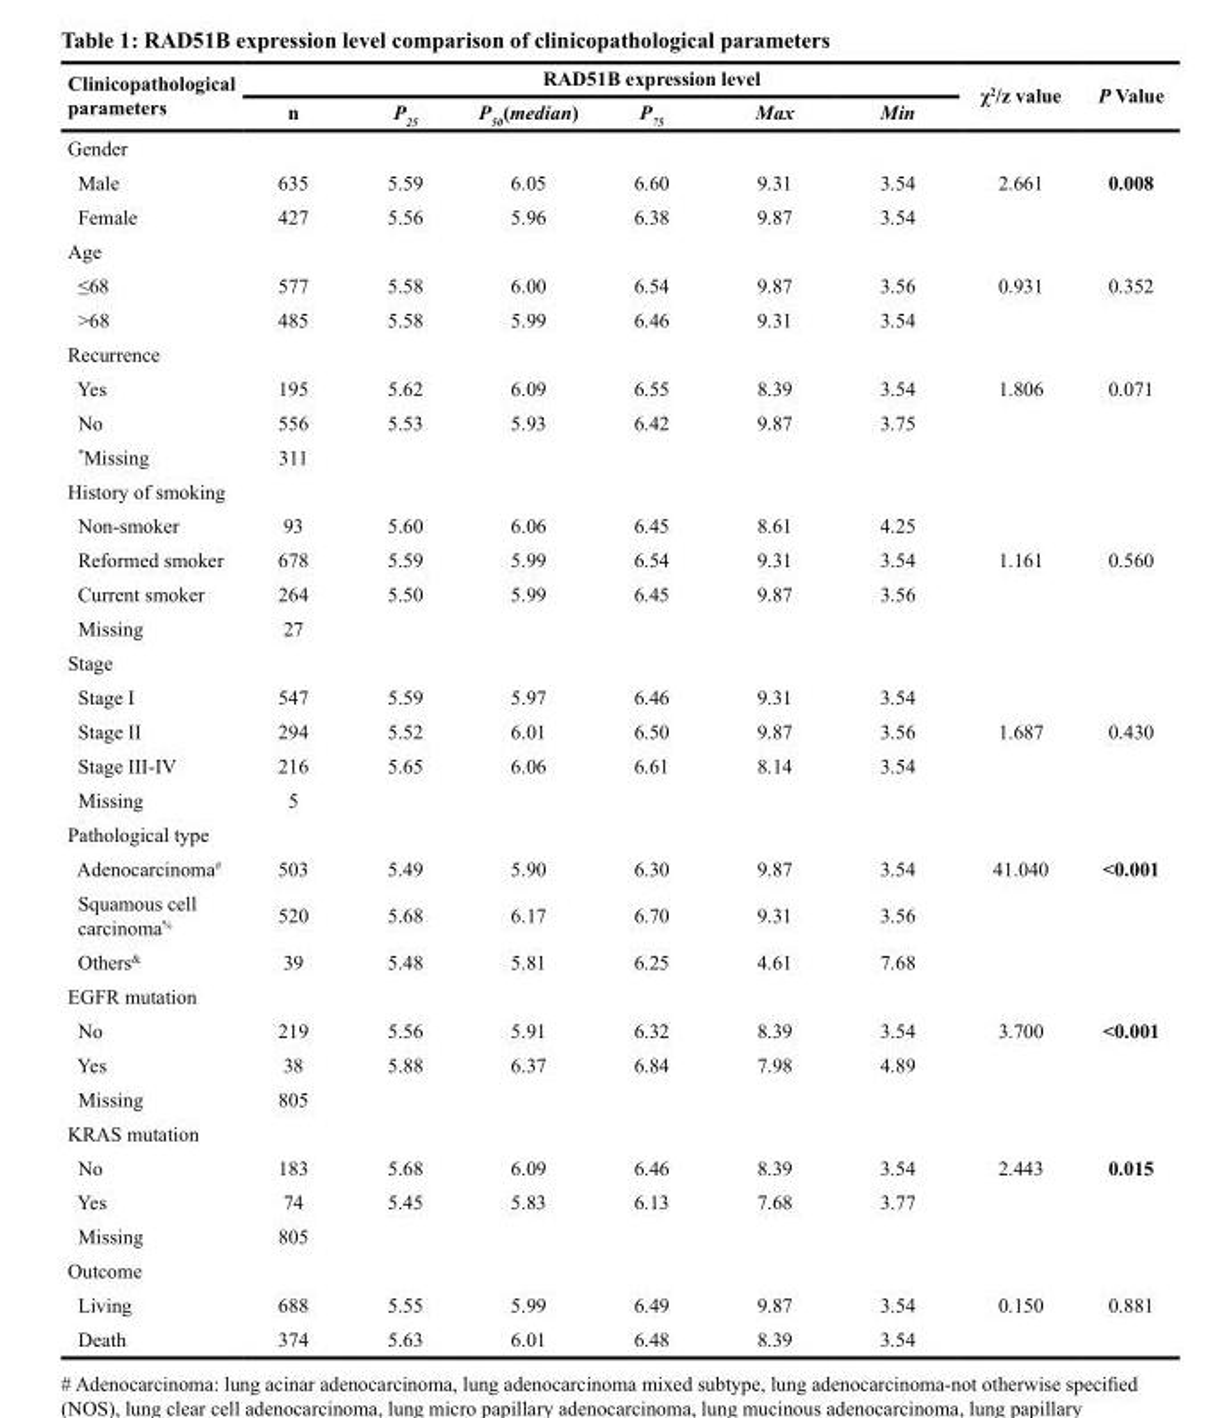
<table><thead><tr><td rowspan="2">Clinicopathological parameters</td><td rowspan="2">n</td><td colspan="5">RAD51B expression level</td><td rowspan="2">χ<sup>2</sup>/z value</td><td rowspan="2">P Value</td></tr><tr><td>P<sub>25</sub></td><td>P<sub>50</sub>(median)</td><td>P<sub>75</sub></td><td>Max</td><td>Min</td></tr></thead><tbody><tr><td colspan="9">Gender</td></tr><tr><td>Male</td><td>635</td><td>5.59</td><td>6.05</td><td>6.60</td><td>9.31</td><td>3.54</td><td>2.661</td><td>0.008</td></tr><tr><td>Female</td><td>427</td><td>5.56</td><td>5.96</td><td>6.38</td><td>9.87</td><td>3.54</td><td></td><td></td></tr><tr><td colspan="9">Age</td></tr><tr><td>≤68</td><td>577</td><td>5.58</td><td>6.00</td><td>6.54</td><td>9.87</td><td>3.56</td><td>0.931</td><td>0.352</td></tr><tr><td>&gt;68</td><td>485</td><td>5.58</td><td>5.99</td><td>6.46</td><td>9.31</td><td>3.54</td><td></td><td></td></tr><tr><td colspan="9">Recurrence</td></tr><tr><td>Yes</td><td>195</td><td>5.62</td><td>6.09</td><td>6.55</td><td>8.39</td><td>3.54</td><td>1.806</td><td>0.071</td></tr><tr><td>No</td><td>556</td><td>5.53</td><td>5.93</td><td>6.42</td><td>9.87</td><td>3.75</td><td></td><td></td></tr><tr><td>*Missing</td><td>311</td><td></td><td></td><td></td><td></td><td></td><td></td><td></td></tr><tr><td colspan="9">History of smoking</td></tr><tr><td>Non-smoker</td><td>93</td><td>5.60</td><td>6.06</td><td>6.45</td><td>8.61</td><td>4.25</td><td></td><td></td></tr><tr><td>Reformed smoker</td><td>678</td><td>5.59</td><td>5.99</td><td>6.54</td><td>9.31</td><td>3.54</td><td>1.161</td><td>0.560</td></tr><tr><td>Current smoker</td><td>264</td><td>5.50</td><td>5.99</td><td>6.45</td><td>9.87</td><td>3.56</td><td></td><td></td></tr><tr><td>Missing</td><td>27</td><td></td><td></td><td></td><td></td><td></td><td></td><td></td></tr><tr><td colspan="9">Stage</td></tr><tr><td>Stage I</td><td>547</td><td>5.59</td><td>5.97</td><td>6.46</td><td>9.31</td><td>3.54</td><td></td><td></td></tr><tr><td>Stage II</td><td>294</td><td>5.52</td><td>6.01</td><td>6.50</td><td>9.87</td><td>3.56</td><td>1.687</td><td>0.430</td></tr><tr><td>Stage III-IV</td><td>216</td><td>5.65</td><td>6.06</td><td>6.61</td><td>8.14</td><td>3.54</td><td></td><td></td></tr><tr><td>Missing</td><td>5</td><td></td><td></td><td></td><td></td><td></td><td></td><td></td></tr><tr><td colspan="9">Pathological type</td></tr><tr><td>Adenocarcinoma<sup>#</sup></td><td>503</td><td>5.49</td><td>5.90</td><td>6.30</td><td>9.87</td><td>3.54</td><td>41.040</td><td>&lt;0.001</td></tr><tr><td>Squamous cell carcinoma<sup>%</sup></td><td>520</td><td>5.68</td><td>6.17</td><td>6.70</td><td>9.31</td><td>3.56</td><td></td><td></td></tr><tr><td>Others<sup>&amp;</sup></td><td>39</td><td>5.48</td><td>5.81</td><td>6.25</td><td>4.61</td><td>7.68</td><td></td><td></td></tr><tr><td colspan="9">EGFR mutation</td></tr><tr><td>No</td><td>219</td><td>5.56</td><td>5.91</td><td>6.32</td><td>8.39</td><td>3.54</td><td>3.700</td><td>&lt;0.001</td></tr><tr><td>Yes</td><td>38</td><td>5.88</td><td>6.37</td><td>6.84</td><td>7.98</td><td>4.89</td><td></td><td></td></tr><tr><td>Missing</td><td>805</td><td></td><td></td><td></td><td></td><td></td><td></td><td></td></tr><tr><td colspan="9">KRAS mutation</td></tr><tr><td>No</td><td>183</td><td>5.68</td><td>6.09</td><td>6.46</td><td>8.39</td><td>3.54</td><td>2.443</td><td>0.015</td></tr><tr><td>Yes</td><td>74</td><td>5.45</td><td>5.83</td><td>6.13</td><td>7.68</td><td>3.77</td><td></td><td></td></tr><tr><td>Missing</td><td>805</td><td></td><td></td><td></td><td></td><td></td><td></td><td></td></tr><tr><td colspan="9">Outcome</td></tr><tr><td>Living</td><td>688</td><td>5.55</td><td>5.99</td><td>6.49</td><td>9.87</td><td>3.54</td><td>0.150</td><td>0.881</td></tr><tr><td>Death</td><td>374</td><td>5.63</td><td>6.01</td><td>6.48</td><td>8.39</td><td>3.54</td><td></td><td></td></tr></tbody></table>